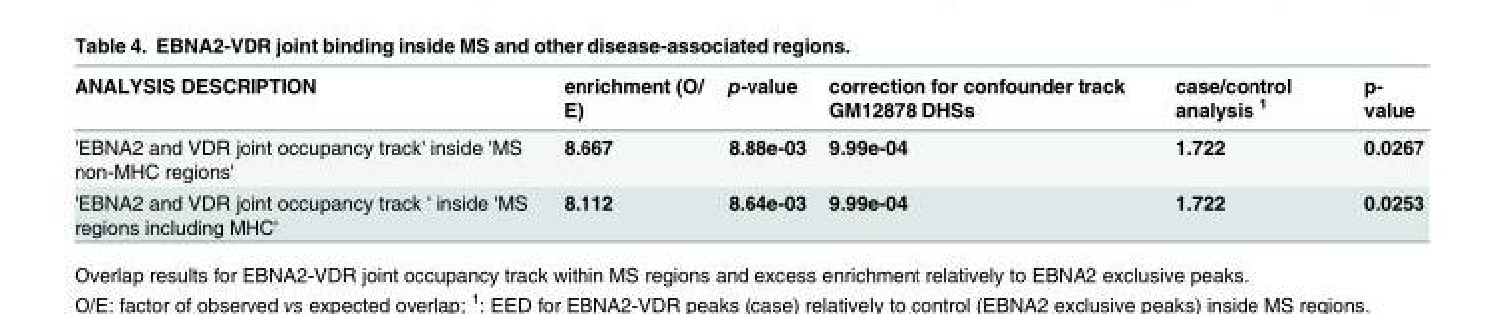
<table><thead><tr><td>ANALYSIS DESCRIPTION</td><td>enrichment (O/ E)</td><td>p-value</td><td>correction for confounder track GM12878 DHSs</td><td>case/control analysis <sup>1</sup></td><td>p- value</td></tr></thead><tbody><tr><td>&#x27;EBNA2 and VDR joint occupancy track&#x27; inside &#x27;MS non-MHC regions&#x27;</td><td>8.667</td><td>8.88e-03</td><td>9.99e-04</td><td>1.722</td><td>0.0267</td></tr><tr><td>&#x27;EBNA2 and VDR joint occupancy track &#x27; inside &#x27;MS regions including MHC&#x27;</td><td>8.112</td><td>8.64e-03</td><td>9.99e-04</td><td>1.722</td><td>0.0253</td></tr></tbody></table>